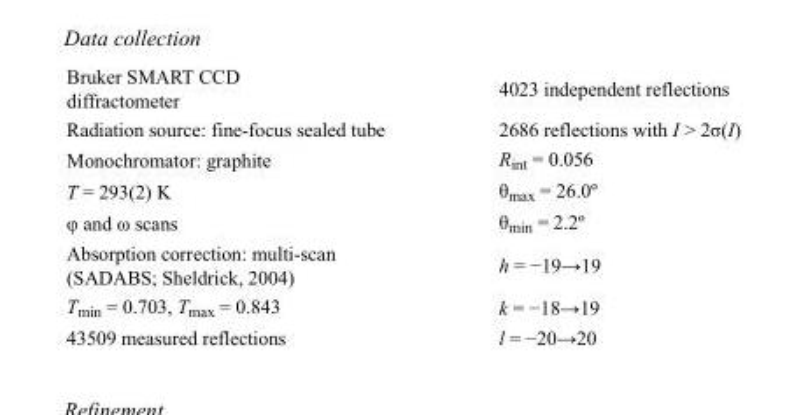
<table><tbody><tr><td>Bruker SMART CCD diffractometer</td><td>4023 independent reflections</td></tr><tr><td>Radiation source: fine-focus sealed tube</td><td>2686 reflections with I &gt; 2σ(I)</td></tr><tr><td>Monochromator: graphite</td><td>R<sub>int</sub> = 0.056</td></tr><tr><td>T = 293(2) K</td><td>θ<sub>max</sub> = 26.0º</td></tr><tr><td>φ and ω scans</td><td>θ<sub>min</sub> = 2.2º</td></tr><tr><td>Absorption correction: multi-scan (SADABS; Sheldrick, 2004)</td><td>h = −19→19</td></tr><tr><td>T<sub>min</sub> = 0.703, T<sub>max</sub> = 0.843</td><td>k = −18→19</td></tr><tr><td>43509 measured reflections</td><td>l = −20→20</td></tr></tbody></table>